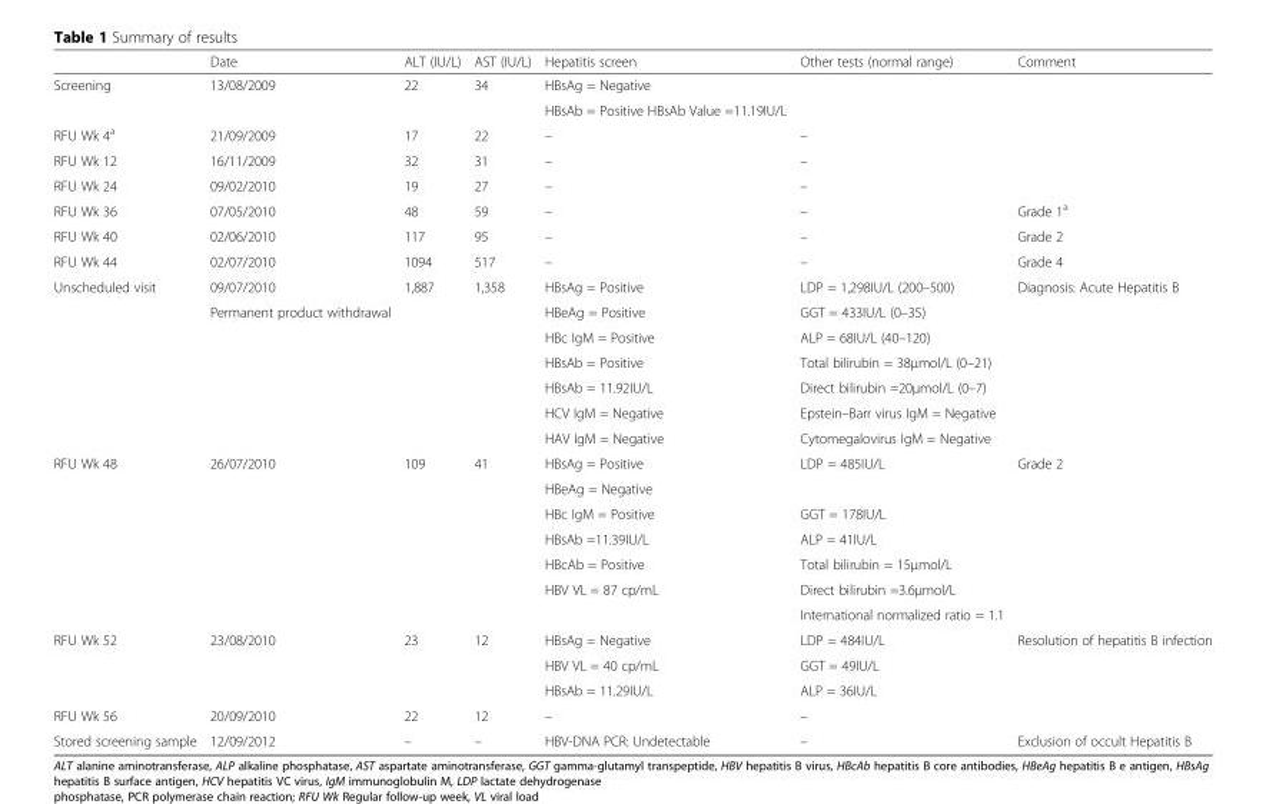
<table><thead><tr><td></td><td>Date</td><td>ALT (IU/L)</td><td>AST (IU/L)</td><td>Hepatitis screen</td><td>Other tests (normal range)</td><td>Comment</td></tr></thead><tbody><tr><td rowspan="2">Screening</td><td rowspan="2">13/08/2009</td><td rowspan="2">22</td><td rowspan="2">34</td><td>HBsAg = Negative</td><td rowspan="2"></td><td rowspan="2"></td></tr><tr><td>HBsAb = Positive HBsAb Value =11.19IU/L</td></tr><tr><td>RFU Wk 4<sup>a</sup></td><td>21/09/2009</td><td>17</td><td>22</td><td>–</td><td>–</td><td></td></tr><tr><td>RFU Wk 12</td><td>16/11/2009</td><td>32</td><td>31</td><td>–</td><td>–</td><td></td></tr><tr><td>RFU Wk 24</td><td>09/02/2010</td><td>19</td><td>27</td><td>–</td><td>–</td><td></td></tr><tr><td>RFU Wk 36</td><td>07/05/2010</td><td>48</td><td>59</td><td>–</td><td>–</td><td>Grade 1<sup>a</sup></td></tr><tr><td>RFU Wk 40</td><td>02/06/2010</td><td>117</td><td>95</td><td>–</td><td>–</td><td>Grade 2</td></tr><tr><td>RFU Wk 44</td><td>02/07/2010</td><td>1094</td><td>517</td><td>–</td><td>–</td><td>Grade 4</td></tr><tr><td rowspan="7">Unscheduled visit</td><td>09/07/2010</td><td>1,887</td><td>1,358</td><td>HBsAg = Positive</td><td>LDP = 1,298IU/L (200–500)</td><td rowspan="7">Diagnosis: Acute Hepatitis B</td></tr><tr><td rowspan="6">Permanent product withdrawal</td><td rowspan="6"></td><td rowspan="6"></td><td>HBeAg = Positive</td><td>GGT = 433IU/L (0–35)</td></tr><tr><td>HBc IgM = Positive</td><td>ALP = 68IU/L (40–120)</td></tr><tr><td>HBsAb = Positive</td><td>Total bilirubin = 38μmol/L (0–21)</td></tr><tr><td>HBsAb = 11.92IU/L</td><td>Direct bilirubin =20μmol/L (0–7)</td></tr><tr><td>HCV IgM = Negative</td><td>Epstein–Barr virus IgM = Negative</td></tr><tr><td>HAV IgM = Negative</td><td>Cytomegalovirus IgM = Negative</td></tr><tr><td rowspan="7">RFU Wk 48</td><td rowspan="7">26/07/2010</td><td rowspan="7">109</td><td rowspan="7">41</td><td>HBsAg = Positive</td><td rowspan="2">LDP = 485IU/L</td><td rowspan="7">Grade 2</td></tr><tr><td>HBeAg = Negative</td></tr><tr><td>HBc IgM = Positive</td><td>GGT = 178IU/L</td></tr><tr><td>HBsAb =11.39IU/L</td><td>ALP = 41IU/L</td></tr><tr><td>HBcAb = Positive</td><td>Total bilirubin = 15μmol/L</td></tr><tr><td rowspan="2">HBV VL = 87 cp/mL</td><td>Direct bilirubin =3.6μmol/L</td></tr><tr><td>International normalized ratio = 1.1</td></tr><tr><td rowspan="3">RFU Wk 52</td><td rowspan="3">23/08/2010</td><td rowspan="3">23</td><td rowspan="3">12</td><td>HBsAg = Negative</td><td>LDP = 484IU/L</td><td rowspan="3">Resolution of hepatitis B infection</td></tr><tr><td>HBV VL = 40 cp/mL</td><td>GGT = 49IU/L</td></tr><tr><td>HBsAb = 11.29IU/L</td><td>ALP = 36IU/L</td></tr><tr><td>RFU Wk 56</td><td>20/09/2010</td><td>22</td><td>12</td><td>–</td><td>–</td><td></td></tr><tr><td>Stored screening sample</td><td>12/09/2012</td><td>–</td><td>–</td><td>HBV-DNA PCR: Undetectable</td><td>–</td><td>Exclusion of occult Hepatitis B</td></tr></tbody></table>